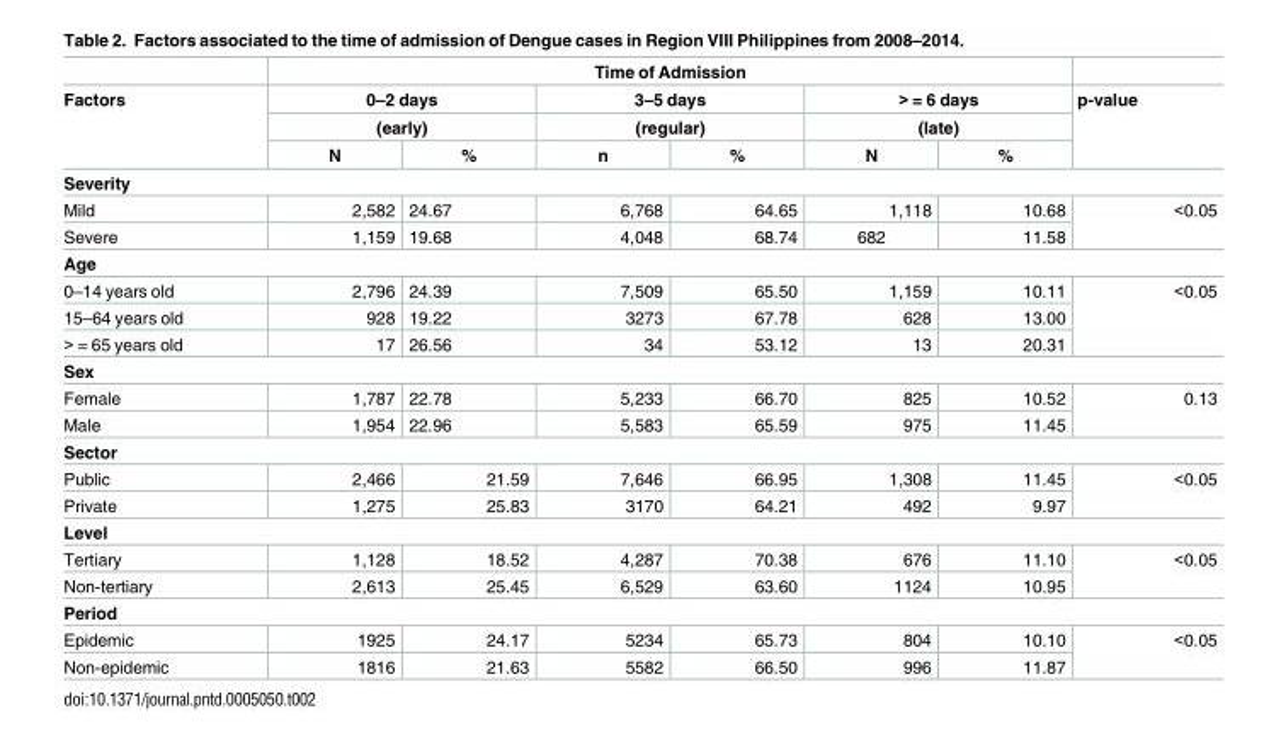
<table><thead><tr><td rowspan="4">Factors</td><td colspan="6">Time of Admission</td><td rowspan="4">p-value</td></tr><tr><td rowspan="2" colspan="2">0–2 days (early)</td><td rowspan="2" colspan="2">3–5 days (regular)</td><td rowspan="2" colspan="2">&gt; = 6 days (late)</td></tr><tr></tr><tr><td>N</td><td>%</td><td>n</td><td>%</td><td>N</td><td>%</td></tr></thead><tbody><tr><td colspan="8">Severity</td></tr><tr><td>Mild</td><td>2,582</td><td>24.67</td><td>6,768</td><td>64.65</td><td>1,118</td><td>10.68</td><td rowspan="2">&lt;0.05</td></tr><tr><td>Severe</td><td>1,159</td><td>19.68</td><td>4,048</td><td>68.74</td><td>682</td><td>11.58</td></tr><tr><td colspan="8">Age</td></tr><tr><td>0–14 years old</td><td>2,796</td><td>24.39</td><td>7,509</td><td>65.50</td><td>1,159</td><td>10.11</td><td rowspan="3">&lt;0.05</td></tr><tr><td>15–64 years old</td><td>928</td><td>19.22</td><td>3273</td><td>67.78</td><td>628</td><td>13.00</td></tr><tr><td>&gt; = 65 years old</td><td>17</td><td>26.56</td><td>34</td><td>53.12</td><td>13</td><td>20.31</td></tr><tr><td colspan="8">Sex</td></tr><tr><td>Female</td><td>1,787</td><td>22.78</td><td>5,233</td><td>66.70</td><td>825</td><td>10.52</td><td rowspan="2">0.13</td></tr><tr><td>Male</td><td>1,954</td><td>22.96</td><td>5,583</td><td>65.59</td><td>975</td><td>11.45</td></tr><tr><td colspan="8">Sector</td></tr><tr><td>Public</td><td>2,466</td><td>21.59</td><td>7,646</td><td>66.95</td><td>1,308</td><td>11.45</td><td rowspan="2">&lt;0.05</td></tr><tr><td>Private</td><td>1,275</td><td>25.83</td><td>3170</td><td>64.21</td><td>492</td><td>9.97</td></tr><tr><td colspan="8">Level</td></tr><tr><td>Tertiary</td><td>1,128</td><td>18.52</td><td>4,287</td><td>70.38</td><td>676</td><td>11.10</td><td rowspan="2">&lt;0.05</td></tr><tr><td>Non-tertiary</td><td>2,613</td><td>25.45</td><td>6,529</td><td>63.60</td><td>1124</td><td>10.95</td></tr><tr><td colspan="8">Period</td></tr><tr><td>Epidemic</td><td>1925</td><td>24.17</td><td>5234</td><td>65.73</td><td>804</td><td>10.10</td><td rowspan="2">&lt;0.05</td></tr><tr><td>Non-epidemic</td><td>1816</td><td>21.63</td><td>5582</td><td>66.50</td><td>996</td><td>11.87</td></tr></tbody></table>